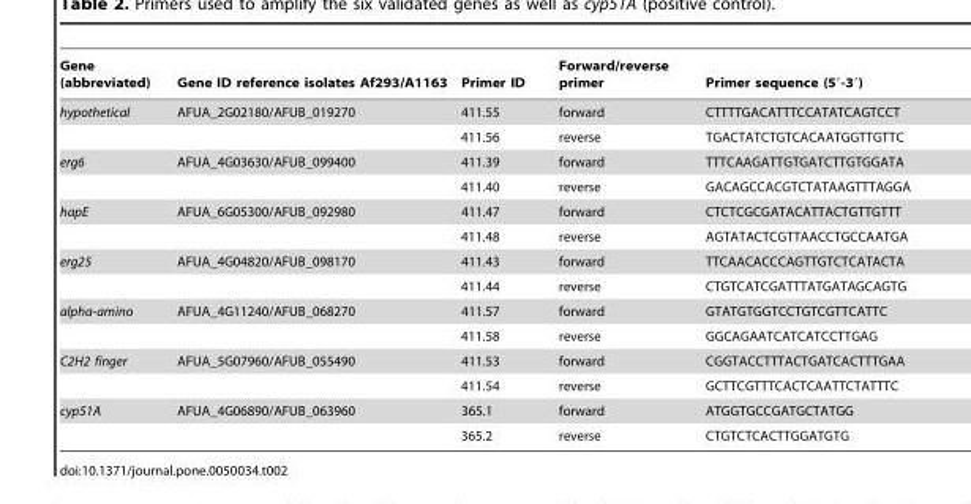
<table><thead><tr><td>Gene (abbreviated)</td><td>Gene ID reference isolates Af293/A1163</td><td>Primer ID</td><td>Forward/reverse primer</td><td>Primer sequence (5′-3′)</td></tr></thead><tbody><tr><td rowspan="2">hypothetical</td><td>AFUA_2G02180/AFUB_019270</td><td>411.55</td><td>forward</td><td>CTTTTGACATTTCCATATCAGTCCT</td></tr><tr><td></td><td>411.56</td><td>reverse</td><td>TGACTATCTGTCACAATGGTTGTTC</td></tr><tr><td rowspan="2">erg6</td><td>AFUA_4G03630/AFUB_099400</td><td>411.39</td><td>forward</td><td>TTTCAAGATTGTGATCTTGTGGATA</td></tr><tr><td></td><td>411.40</td><td>reverse</td><td>GACAGCCACGTCTATAAGTTTAGGA</td></tr><tr><td rowspan="2">hapE</td><td>AFUA_6G05300/AFUB_092980</td><td>411.47</td><td>forward</td><td>CTCTCGCGATACATTACTGTTGTTT</td></tr><tr><td></td><td>411.48</td><td>reverse</td><td>AGTATACTCGTTAACCTGCCAATGA</td></tr><tr><td rowspan="2">erg25</td><td>AFUA_4G04820/AFUB_098170</td><td>411.43</td><td>forward</td><td>TTCAACACCCAGTTGTCTCATACTA</td></tr><tr><td></td><td>411.44</td><td>reverse</td><td>CTGTCATCGATTTATGATAGCAGTG</td></tr><tr><td rowspan="2">alpha-amino</td><td>AFUA_4G11240/AFUB_068270</td><td>411.57</td><td>forward</td><td>GTATGTGGTCCTGTCGTTCATTC</td></tr><tr><td></td><td>411.58</td><td>reverse</td><td>GGCAGAATCATCATCCTTGAG</td></tr><tr><td rowspan="2">C2H2 finger</td><td>AFUA_5G07960/AFUB_055490</td><td>411.53</td><td>forward</td><td>CGGTACCTTTACTGATCACTTTGAA</td></tr><tr><td></td><td>411.54</td><td>reverse</td><td>GCTTCGTTTCACTCAATTCTATTTC</td></tr><tr><td rowspan="2">cyp51A</td><td>AFUA_4G06890/AFUB_063960</td><td>365.1</td><td>forward</td><td>ATGGTGCCGATGCTATGG</td></tr><tr><td></td><td>365.2</td><td>reverse</td><td>CTGTCTCACTTGGATGTG</td></tr></tbody></table>